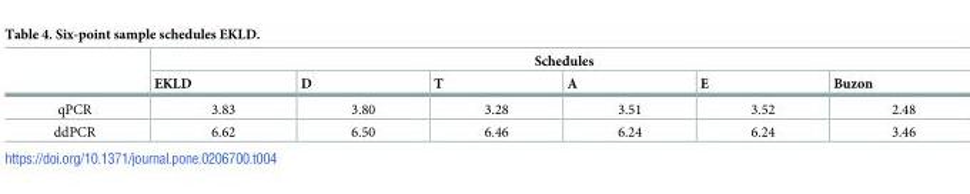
<table><thead><tr><td rowspan="2"></td><td colspan="6">Schedules</td></tr><tr><td>EKLD</td><td>D</td><td>T</td><td>A</td><td>E</td><td>Buzon</td></tr></thead><tbody><tr><td>qPCR</td><td>3.83</td><td>3.80</td><td>3.28</td><td>3.51</td><td>3.52</td><td>2.48</td></tr><tr><td>ddPCR</td><td>6.62</td><td>6.50</td><td>6.46</td><td>6.24</td><td>6.24</td><td>3.46</td></tr></tbody></table>